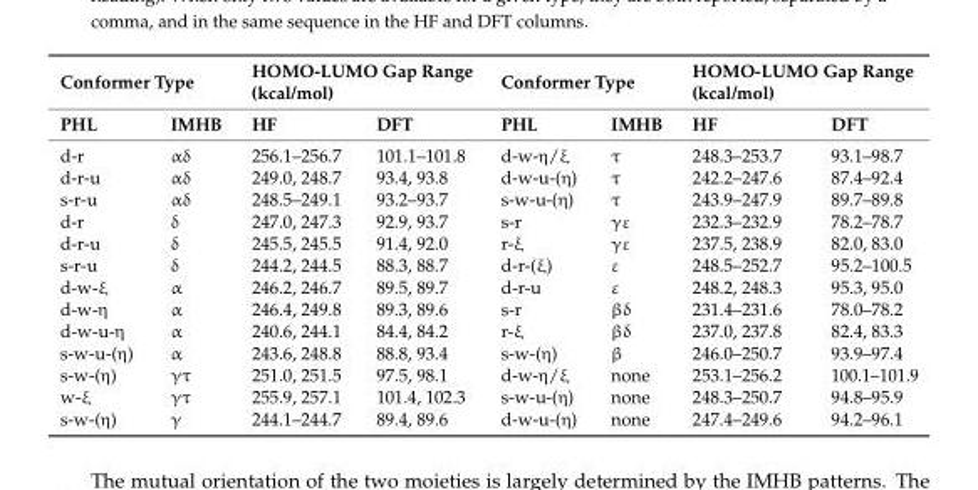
<table><thead><tr><td colspan="2">Conformer Type</td><td colspan="2">HOMO-LUMO Gap Range (kcal/mol)</td><td colspan="2">Conformer Type</td><td colspan="2">HOMO-LUMO Gap Range (kcal/mol)</td></tr><tr><td>PHL</td><td>IMHB</td><td>HF</td><td>DFT</td><td>PHL</td><td>IMHB</td><td>HF</td><td>DFT</td></tr></thead><tbody><tr><td>d-r</td><td>αδ</td><td>256.1–256.7</td><td>101.1–101.8</td><td>d-w-η/ξ</td><td>τ</td><td>248.3–253.7</td><td>93.1–98.7</td></tr><tr><td>d-r-u</td><td>αδ</td><td>249.0, 248.7</td><td>93.4, 93.8</td><td>d-w-u-(η)</td><td>τ</td><td>242.2–247.6</td><td>87.4–92.4</td></tr><tr><td>s-r-u</td><td>αδ</td><td>248.5–249.1</td><td>93.2–93.7</td><td>s-w-u-(η)</td><td>τ</td><td>243.9–247.9</td><td>89.7–89.8</td></tr><tr><td>d-r</td><td>δ</td><td>247.0, 247.3</td><td>92.9, 93.7</td><td>s-r</td><td>γε</td><td>232.3–232.9</td><td>78.2–78.7</td></tr><tr><td>d-r-u</td><td>δ</td><td>245.5, 245.5</td><td>91.4, 92.0</td><td>r-ξ</td><td>γε</td><td>237.5, 238.9</td><td>82.0, 83.0</td></tr><tr><td>s-r-u</td><td>δ</td><td>244.2, 244.5</td><td>88.3, 88.7</td><td>d-r-(ξ)</td><td>ε</td><td>248.5–252.7</td><td>95.2–100.5</td></tr><tr><td>d-w-ξ</td><td>α</td><td>246.2, 246.7</td><td>89.5, 89.7</td><td>d-r-u</td><td>ε</td><td>248.2, 248.3</td><td>95.3, 95.0</td></tr><tr><td>d-w-η</td><td>α</td><td>246.4, 249.8</td><td>89.3, 89.6</td><td>s-r</td><td>βδ</td><td>231.4–231.6</td><td>78.0–78.2</td></tr><tr><td>d-w-u-η</td><td>α</td><td>240.6, 244.1</td><td>84.4, 84.2</td><td>r-ξ</td><td>βδ</td><td>237.0, 237.8</td><td>82.4, 83.3</td></tr><tr><td>s-w-u-(η)</td><td>α</td><td>243.6, 248.8</td><td>88.8, 93.4</td><td>s-w-(η)</td><td>β</td><td>246.0–250.7</td><td>93.9–97.4</td></tr><tr><td>s-w-(η)</td><td>γτ</td><td>251.0, 251.5</td><td>97.5, 98.1</td><td>d-w-η/ξ</td><td>none</td><td>253.1–256.2</td><td>100.1–101.9</td></tr><tr><td>w-ξ</td><td>γτ</td><td>255.9, 257.1</td><td>101.4, 102.3</td><td>s-w-u-(η)</td><td>none</td><td>248.3–250.7</td><td>94.8–95.9</td></tr><tr><td>s-w-(η)</td><td>γ</td><td>244.1–244.7</td><td>89.4, 89.6</td><td>d-w-u-(η)</td><td>none</td><td>247.4–249.6</td><td>94.2–96.1</td></tr></tbody></table>